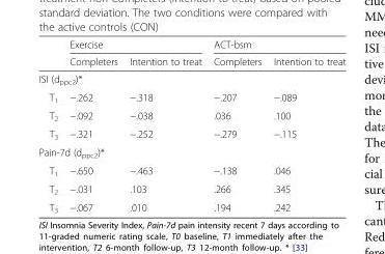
<table><thead><tr><td rowspan="2"></td><td colspan="2">Exercise</td><td colspan="2">ACT-bsm</td></tr><tr><td>Completers</td><td>Intention to treat</td><td>Completers</td><td>Intention to treat</td></tr></thead><tbody><tr><td colspan="5">ISI (d<sub>ppc2</sub>)*</td></tr><tr><td>T<sub>1</sub></td><td>−.262</td><td>−.318</td><td>−.207</td><td>−.089</td></tr><tr><td>T<sub>2</sub></td><td>−.092</td><td>−.038</td><td>.036</td><td>.100</td></tr><tr><td>T<sub>3</sub></td><td>−.321</td><td>−.252</td><td>−.279</td><td>−.115</td></tr><tr><td colspan="5">Pain-7d (d<sub>ppc2</sub>)*</td></tr><tr><td>T<sub>1</sub></td><td>−.650</td><td>−.463</td><td>−.138</td><td>.046</td></tr><tr><td>T<sub>2</sub></td><td>−.031</td><td>.103</td><td>.266</td><td>.345</td></tr><tr><td>T<sub>3</sub></td><td>−.067</td><td>.010</td><td>.194</td><td>.242</td></tr></tbody></table>